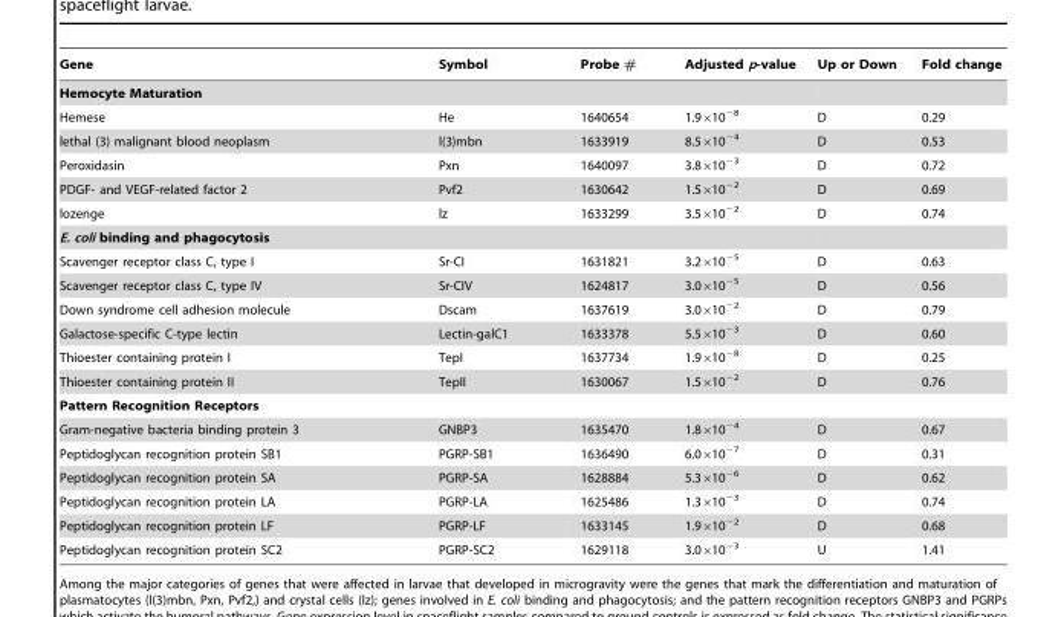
<table><thead><tr><td>Gene</td><td>Symbol</td><td>Probe #</td><td>Adjusted p-value</td><td>Up or Down</td><td>Fold change</td></tr></thead><tbody><tr><td colspan="6">Hemocyte Maturation</td></tr><tr><td>Hemese</td><td>He</td><td>1640654</td><td>1.9×10<sup>−8</sup></td><td>D</td><td>0.29</td></tr><tr><td>lethal (3) malignant blood neoplasm</td><td>l(3)mbn</td><td>1633919</td><td>8.5×10<sup>−4</sup></td><td>D</td><td>0.53</td></tr><tr><td>Peroxidasin</td><td>Pxn</td><td>1640097</td><td>3.8×10<sup>−3</sup></td><td>D</td><td>0.72</td></tr><tr><td>PDGF- and VEGF-related factor 2</td><td>Pvf2</td><td>1630642</td><td>1.5×10<sup>−2</sup></td><td>D</td><td>0.69</td></tr><tr><td>lozenge</td><td>lz</td><td>1633299</td><td>3.5×10<sup>−2</sup></td><td>D</td><td>0.74</td></tr><tr><td colspan="6">E. coli binding and phagocytosis</td></tr><tr><td>Scavenger receptor class C, type I</td><td>Sr-CI</td><td>1631821</td><td>3.2×10<sup>−5</sup></td><td>D</td><td>0.63</td></tr><tr><td>Scavenger receptor class C, type IV</td><td>Sr-CIV</td><td>1624817</td><td>3.0×10<sup>−5</sup></td><td>D</td><td>0.56</td></tr><tr><td>Down syndrome cell adhesion molecule</td><td>Dscam</td><td>1637619</td><td>3.0×10<sup>−2</sup></td><td>D</td><td>0.79</td></tr><tr><td>Galactose-specific C-type lectin</td><td>Lectin-galC1</td><td>1633378</td><td>5.5×10<sup>−3</sup></td><td>D</td><td>0.60</td></tr><tr><td>Thioester containing protein I</td><td>TepI</td><td>1637734</td><td>1.9×10<sup>−8</sup></td><td>D</td><td>0.25</td></tr><tr><td>Thioester containing protein II</td><td>TepII</td><td>1630067</td><td>1.5×10<sup>−2</sup></td><td>D</td><td>0.76</td></tr><tr><td colspan="6">Pattern Recognition Receptors</td></tr><tr><td>Gram-negative bacteria binding protein 3</td><td>GNBP3</td><td>1635470</td><td>1.8×10<sup>−4</sup></td><td>D</td><td>0.67</td></tr><tr><td>Peptidoglycan recognition protein SB1</td><td>PGRP-SB1</td><td>1636490</td><td>6.0×10<sup>−7</sup></td><td>D</td><td>0.31</td></tr><tr><td>Peptidoglycan recognition protein SA</td><td>PGRP-SA</td><td>1628884</td><td>5.3×10<sup>−6</sup></td><td>D</td><td>0.62</td></tr><tr><td>Peptidoglycan recognition protein LA</td><td>PGRP-LA</td><td>1625486</td><td>1.3×10<sup>−3</sup></td><td>D</td><td>0.74</td></tr><tr><td>Peptidoglycan recognition protein LF</td><td>PGRP-LF</td><td>1633145</td><td>1.9×10<sup>−2</sup></td><td>D</td><td>0.68</td></tr><tr><td>Peptidoglycan recognition protein SC2</td><td>PGRP-SC2</td><td>1629118</td><td>3.0×10<sup>−3</sup></td><td>U</td><td>1.41</td></tr></tbody></table>